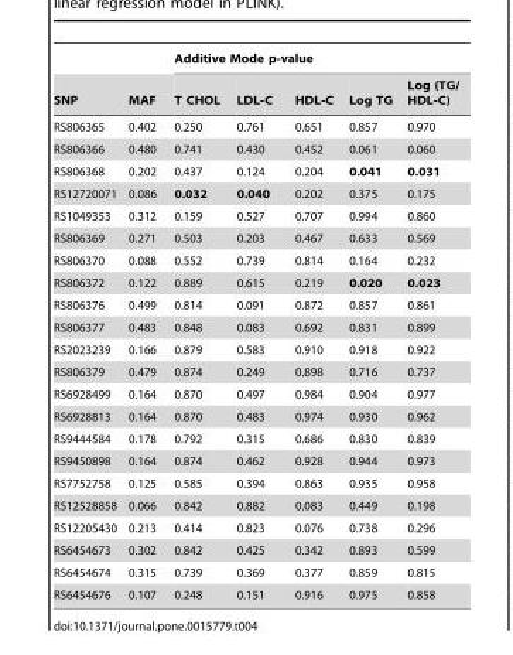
<table><thead><tr><td rowspan="2">SNP</td><td rowspan="2">MAF</td><td colspan="5">Additive Mode p-value</td></tr><tr><td>T CHOL</td><td>LDL-C</td><td>HDL-C</td><td>Log TG</td><td>Log (TG/ HDL-C)</td></tr></thead><tbody><tr><td>RS806365</td><td>0.402</td><td>0.250</td><td>0.761</td><td>0.651</td><td>0.857</td><td>0.970</td></tr><tr><td>RS806366</td><td>0.480</td><td>0.741</td><td>0.430</td><td>0.452</td><td>0.061</td><td>0.060</td></tr><tr><td>RS806368</td><td>0.202</td><td>0.437</td><td>0.124</td><td>0.204</td><td>0.041</td><td>0.031</td></tr><tr><td>RS12720071</td><td>0.086</td><td>0.032</td><td>0.040</td><td>0.202</td><td>0.375</td><td>0.175</td></tr><tr><td>RS1049353</td><td>0.312</td><td>0.159</td><td>0.527</td><td>0.707</td><td>0.994</td><td>0.860</td></tr><tr><td>RS806369</td><td>0.271</td><td>0.503</td><td>0.203</td><td>0.467</td><td>0.633</td><td>0.569</td></tr><tr><td>RS806370</td><td>0.088</td><td>0.552</td><td>0.739</td><td>0.814</td><td>0.164</td><td>0.232</td></tr><tr><td>RS806372</td><td>0.122</td><td>0.889</td><td>0.615</td><td>0.219</td><td>0.020</td><td>0.023</td></tr><tr><td>RS806376</td><td>0.499</td><td>0.814</td><td>0.091</td><td>0.872</td><td>0.857</td><td>0.861</td></tr><tr><td>RS806377</td><td>0.483</td><td>0.848</td><td>0.083</td><td>0.692</td><td>0.831</td><td>0.899</td></tr><tr><td>RS2023239</td><td>0.166</td><td>0.879</td><td>0.583</td><td>0.910</td><td>0.918</td><td>0.922</td></tr><tr><td>RS806379</td><td>0.479</td><td>0.874</td><td>0.249</td><td>0.898</td><td>0.716</td><td>0.737</td></tr><tr><td>RS6928499</td><td>0.164</td><td>0.870</td><td>0.497</td><td>0.984</td><td>0.904</td><td>0.977</td></tr><tr><td>RS6928813</td><td>0.164</td><td>0.870</td><td>0.483</td><td>0.974</td><td>0.930</td><td>0.962</td></tr><tr><td>RS9444584</td><td>0.178</td><td>0.792</td><td>0.315</td><td>0.686</td><td>0.830</td><td>0.839</td></tr><tr><td>RS9450898</td><td>0.164</td><td>0.874</td><td>0.462</td><td>0.928</td><td>0.944</td><td>0.973</td></tr><tr><td>RS7752758</td><td>0.125</td><td>0.585</td><td>0.394</td><td>0.863</td><td>0.935</td><td>0.958</td></tr><tr><td>RS12528858</td><td>0.066</td><td>0.842</td><td>0.882</td><td>0.083</td><td>0.449</td><td>0.198</td></tr><tr><td>RS12205430</td><td>0.213</td><td>0.414</td><td>0.823</td><td>0.076</td><td>0.738</td><td>0.296</td></tr><tr><td>RS6454673</td><td>0.302</td><td>0.842</td><td>0.425</td><td>0.342</td><td>0.893</td><td>0.599</td></tr><tr><td>RS6454674</td><td>0.315</td><td>0.739</td><td>0.369</td><td>0.377</td><td>0.859</td><td>0.815</td></tr><tr><td>RS6454676</td><td>0.107</td><td>0.248</td><td>0.151</td><td>0.916</td><td>0.975</td><td>0.858</td></tr></tbody></table>